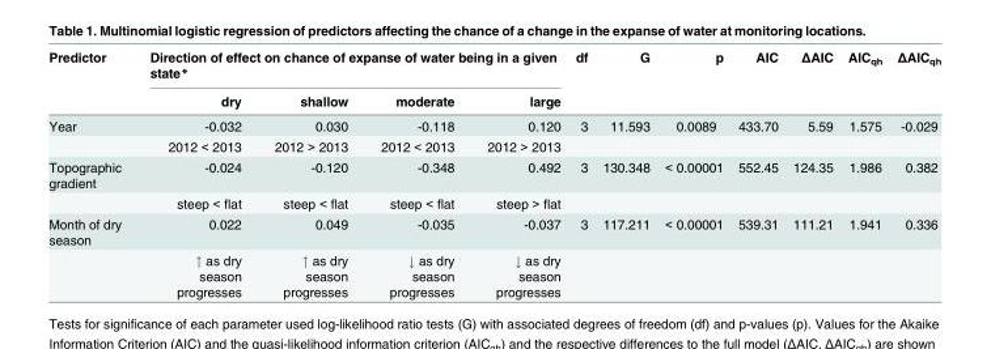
<table><thead><tr><td rowspan="2">Predictor</td><td colspan="4">Direction of effect on chance of expanse of water being in a given state*</td><td rowspan="2">df</td><td rowspan="2">G</td><td rowspan="2">p</td><td rowspan="2">AIC</td><td rowspan="2">ΔAIC</td><td rowspan="2">AIC<sub>qh</sub></td><td rowspan="2">ΔAIC<sub>qh</sub></td></tr><tr><td>dry</td><td>shallow</td><td>moderate</td><td>large</td></tr></thead><tbody><tr><td rowspan="2">Year</td><td>-0.032</td><td>0.030</td><td>-0.118</td><td>0.120</td><td>3</td><td>11.593</td><td>0.0089</td><td>433.70</td><td>5.59</td><td>1.575</td><td>-0.029</td></tr><tr><td>2012 &lt; 2013</td><td>2012 &gt; 2013</td><td>2012 &lt; 2013</td><td>2012 &gt; 2013</td><td></td><td></td><td></td><td></td><td></td><td></td><td></td></tr><tr><td rowspan="2">Topographic gradient</td><td>-0.024</td><td>-0.120</td><td>-0.348</td><td>0.492</td><td>3</td><td>130.348</td><td>&lt; 0.00001</td><td>552.45</td><td>124.35</td><td>1.986</td><td>0.382</td></tr><tr><td>steep &lt; flat</td><td>steep &lt; flat</td><td>steep &lt; flat</td><td>steep &gt; flat</td><td></td><td></td><td></td><td></td><td></td><td></td><td></td></tr><tr><td rowspan="2">Month of dry season</td><td>0.022</td><td>0.049</td><td>-0.035</td><td>-0.037</td><td>3</td><td>117.211</td><td>&lt; 0.00001</td><td>539.31</td><td>111.21</td><td>1.941</td><td>0.336</td></tr><tr><td>↑ as dry season progresses</td><td>↑ as dry season progresses</td><td>↓ as dry season progresses</td><td>↓ as dry season progresses</td><td></td><td></td><td></td><td></td><td></td><td></td><td></td></tr></tbody></table>